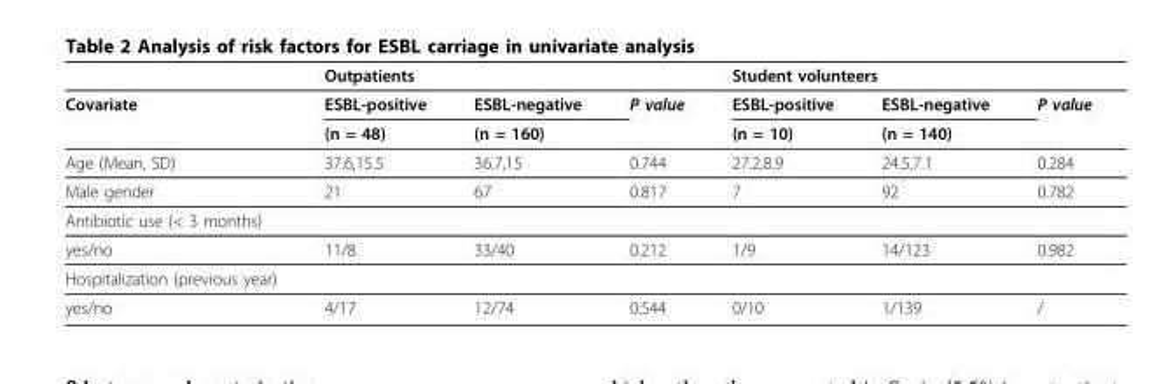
<table><thead><tr><td rowspan="2">Covariate</td><td colspan="2">Outpatients</td><td rowspan="2">P value</td><td colspan="2">Student volunteers</td><td rowspan="2">P value</td></tr><tr><td>ESBL-positive</td><td>ESBL-negative</td><td>ESBL-positive</td><td>ESBL-negative</td></tr></thead><tbody><tr><td></td><td>(n = 48)</td><td>(n = 160)</td><td></td><td>(n = 10)</td><td>(n = 140)</td><td></td></tr><tr><td>Age (Mean, SD)</td><td>37.6,15.5</td><td>36.7,15</td><td>0.744</td><td>27.2,8.9</td><td>24.5,7.1</td><td>0.284</td></tr><tr><td>Male gender</td><td>21</td><td>67</td><td>0.817</td><td>7</td><td>92</td><td>0.782</td></tr><tr><td colspan="7">Antibiotic use (&lt; 3 months)</td></tr><tr><td>yes/no</td><td>11/8</td><td>33/40</td><td>0.212</td><td>1/9</td><td>14/123</td><td>0.982</td></tr><tr><td colspan="7">Hospitalization (previous year)</td></tr><tr><td>yes/no</td><td>4/17</td><td>12/74</td><td>0.544</td><td>0/10</td><td>1/139</td><td>/</td></tr></tbody></table>